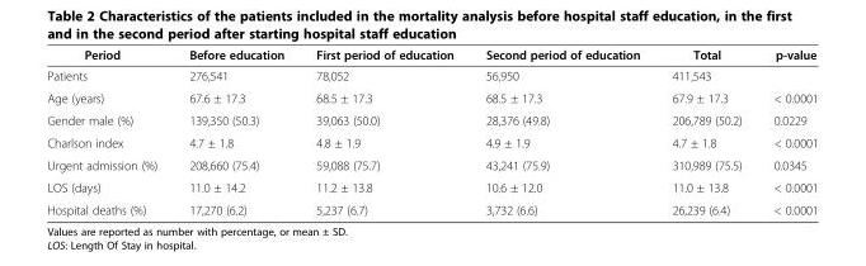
<table><thead><tr><td>Period</td><td>Before education</td><td>First period of education</td><td>Second period of education</td><td>Total</td><td>p-value</td></tr></thead><tbody><tr><td>Patients</td><td>276,541</td><td>78,052</td><td>56,950</td><td>411,543</td><td></td></tr><tr><td>Age (years)</td><td>67.6 ± 17.3</td><td>68.5 ± 17.3</td><td>68.5 ± 17.3</td><td>67.9 ± 17.3</td><td>&lt; 0.0001</td></tr><tr><td>Gender male (%)</td><td>139,350 (50.3)</td><td>39,063 (50.0)</td><td>28,376 (49.8)</td><td>206,789 (50.2)</td><td>0.0229</td></tr><tr><td>Charlson index</td><td>4.7 ± 1.8</td><td>4.8 ± 1.9</td><td>4.9 ± 1.9</td><td>4.7 ± 1.8</td><td>&lt; 0.0001</td></tr><tr><td>Urgent admission (%)</td><td>208,660 (75.4)</td><td>59,088 (75.7)</td><td>43,241 (75.9)</td><td>310,989 (75.5)</td><td>0.0345</td></tr><tr><td>LOS (days)</td><td>11.0 ± 14.2</td><td>11.2 ± 13.8</td><td>10.6 ± 12.0</td><td>11.0 ± 13.8</td><td>&lt; 0.0001</td></tr><tr><td>Hospital deaths (%)</td><td>17,270 (6.2)</td><td>5,237 (6.7)</td><td>3,732 (6.6)</td><td>26,239 (6.4)</td><td>&lt; 0.0001</td></tr></tbody></table>